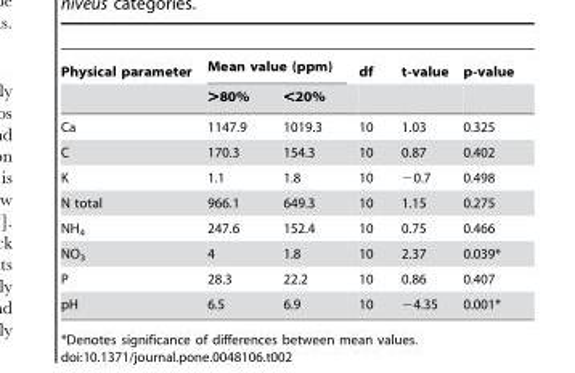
<table><thead><tr><td rowspan="2">Physical parameter</td><td colspan="2">Mean value (ppm)</td><td rowspan="2">df</td><td rowspan="2">t-value</td><td rowspan="2">p-value</td></tr><tr><td>&gt;80%</td><td>&lt;20%</td></tr></thead><tbody><tr><td>Ca</td><td>1147.9</td><td>1019.3</td><td>10</td><td>1.03</td><td>0.325</td></tr><tr><td>C</td><td>170.3</td><td>154.3</td><td>10</td><td>0.87</td><td>0.402</td></tr><tr><td>K</td><td>1.1</td><td>1.8</td><td>10</td><td>−0.7</td><td>0.498</td></tr><tr><td>N total</td><td>966.1</td><td>649.3</td><td>10</td><td>1.15</td><td>0.275</td></tr><tr><td>NH<sub>4</sub></td><td>247.6</td><td>152.4</td><td>10</td><td>0.75</td><td>0.466</td></tr><tr><td>NO<sub>3</sub></td><td>4</td><td>1.8</td><td>10</td><td>2.37</td><td>0.039*</td></tr><tr><td>P</td><td>28.3</td><td>22.2</td><td>10</td><td>0.86</td><td>0.407</td></tr><tr><td>pH</td><td>6.5</td><td>6.9</td><td>10</td><td>−4.35</td><td>0.001*</td></tr></tbody></table>